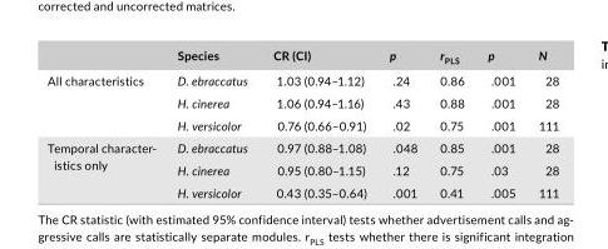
<table><thead><tr><td></td><td>Species</td><td>CR (CI)</td><td>p</td><td>r<sub>PLS</sub></td><td>p</td><td>N</td></tr></thead><tbody><tr><td rowspan="3">All characteristics</td><td>D. ebraccatus</td><td>1.03 (0.94–1.12)</td><td>.24</td><td>0.86</td><td>.001</td><td>28</td></tr><tr><td>H. cinerea</td><td>1.06 (0.94–1.16)</td><td>.43</td><td>0.88</td><td>.001</td><td>28</td></tr><tr><td>H. versicolor</td><td>0.76 (0.66–0.91)</td><td>.02</td><td>0.75</td><td>.001</td><td>111</td></tr><tr><td rowspan="3">Temporal character- istics only</td><td>D. ebraccatus</td><td>0.97 (0.88–1.08)</td><td>.048</td><td>0.85</td><td>.001</td><td>28</td></tr><tr><td>H. cinerea</td><td>0.95 (0.80–1.15)</td><td>.12</td><td>0.75</td><td>.03</td><td>28</td></tr><tr><td>H. versicolor</td><td>0.43 (0.35–0.64)</td><td>.001</td><td>0.41</td><td>.005</td><td>111</td></tr></tbody></table>